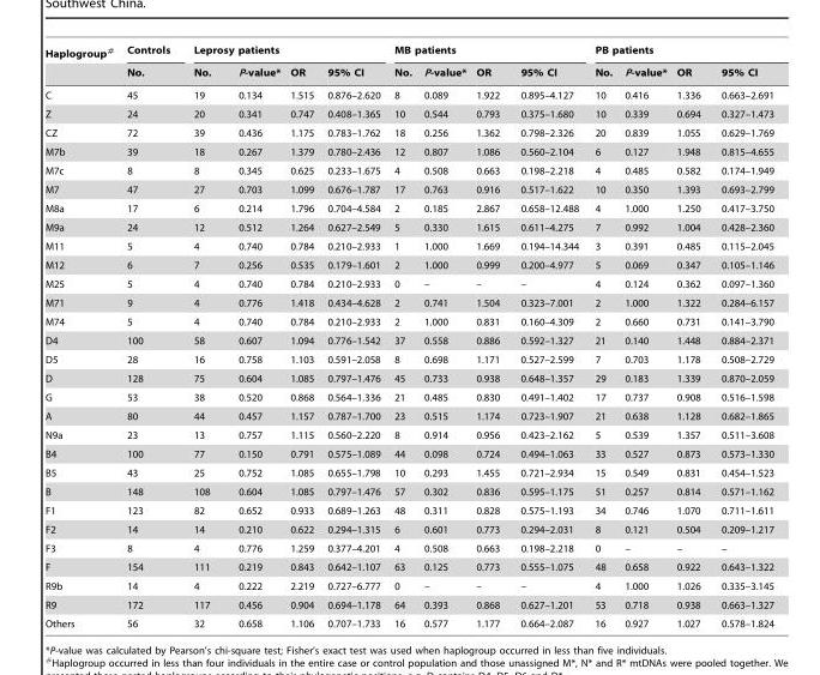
<table><thead><tr><td rowspan="2">Haplogroup#</td><td rowspan="2">Controls No.</td><td colspan="4">Leprosy patients</td><td colspan="4">MB patients</td><td colspan="4">PB patients</td></tr><tr><td>No.</td><td>P-value*</td><td>OR</td><td>95% CI</td><td>No.</td><td>P-value*</td><td>OR</td><td>95% CI</td><td>No.</td><td>P-value*</td><td>OR</td><td>95% CI</td></tr></thead><tbody><tr><td>C</td><td>45</td><td>19</td><td>0.134</td><td>1.515</td><td>0.876–2.620</td><td>8</td><td>0.089</td><td>1.922</td><td>0.895–4.127</td><td>10</td><td>0.416</td><td>1.336</td><td>0.663–2.691</td></tr><tr><td>Z</td><td>24</td><td>20</td><td>0.341</td><td>0.747</td><td>0.408–1.365</td><td>10</td><td>0.544</td><td>0.793</td><td>0.375–1.680</td><td>10</td><td>0.339</td><td>0.694</td><td>0.327–1.473</td></tr><tr><td>CZ</td><td>72</td><td>39</td><td>0.436</td><td>1.175</td><td>0.783–1.762</td><td>18</td><td>0.256</td><td>1.362</td><td>0.798–2.326</td><td>20</td><td>0.839</td><td>1.055</td><td>0.629–1.769</td></tr><tr><td>M7b</td><td>39</td><td>18</td><td>0.267</td><td>1.379</td><td>0.780–2.436</td><td>12</td><td>0.807</td><td>1.086</td><td>0.560–2.104</td><td>6</td><td>0.127</td><td>1.948</td><td>0.815–4.655</td></tr><tr><td>M7c</td><td>8</td><td>8</td><td>0.345</td><td>0.625</td><td>0.233–1.675</td><td>4</td><td>0.508</td><td>0.663</td><td>0.198–2.218</td><td>4</td><td>0.485</td><td>0.582</td><td>0.174–1.949</td></tr><tr><td>M7</td><td>47</td><td>27</td><td>0.703</td><td>1.099</td><td>0.676–1.787</td><td>17</td><td>0.763</td><td>0.916</td><td>0.517–1.622</td><td>10</td><td>0.350</td><td>1.393</td><td>0.693–2.799</td></tr><tr><td>M8a</td><td>17</td><td>6</td><td>0.214</td><td>1.796</td><td>0.704–4.584</td><td>2</td><td>0.185</td><td>2.867</td><td>0.658–12.488</td><td>4</td><td>1.000</td><td>1.250</td><td>0.417–3.750</td></tr><tr><td>M9a</td><td>24</td><td>12</td><td>0.512</td><td>1.264</td><td>0.627–2.549</td><td>5</td><td>0.330</td><td>1.615</td><td>0.611–4.275</td><td>7</td><td>0.992</td><td>1.004</td><td>0.428–2.360</td></tr><tr><td>M11</td><td>5</td><td>4</td><td>0.740</td><td>0.784</td><td>0.210–2.933</td><td>1</td><td>1.000</td><td>1.669</td><td>0.194–14.344</td><td>3</td><td>0.391</td><td>0.485</td><td>0.115–2.045</td></tr><tr><td>M12</td><td>6</td><td>7</td><td>0.256</td><td>0.535</td><td>0.179–1.601</td><td>2</td><td>1.000</td><td>0.999</td><td>0.200–4.977</td><td>5</td><td>0.069</td><td>0.347</td><td>0.105–1.146</td></tr><tr><td>M25</td><td>5</td><td>4</td><td>0.740</td><td>0.784</td><td>0.210–2.933</td><td>0</td><td>–</td><td>–</td><td>–</td><td>4</td><td>0.124</td><td>0.362</td><td>0.097–1.360</td></tr><tr><td>M71</td><td>9</td><td>4</td><td>0.776</td><td>1.418</td><td>0.434–4.628</td><td>2</td><td>0.741</td><td>1.504</td><td>0.323–7.001</td><td>2</td><td>1.000</td><td>1.322</td><td>0.284–6.157</td></tr><tr><td>M74</td><td>5</td><td>4</td><td>0.740</td><td>0.784</td><td>0.210–2.933</td><td>2</td><td>1.000</td><td>0.831</td><td>0.160–4.309</td><td>2</td><td>0.660</td><td>0.731</td><td>0.141–3.790</td></tr><tr><td>D4</td><td>100</td><td>58</td><td>0.607</td><td>1.094</td><td>0.776–1.542</td><td>37</td><td>0.558</td><td>0.886</td><td>0.592–1.327</td><td>21</td><td>0.140</td><td>1.448</td><td>0.884–2.371</td></tr><tr><td>D5</td><td>28</td><td>16</td><td>0.758</td><td>1.103</td><td>0.591–2.058</td><td>8</td><td>0.698</td><td>1.171</td><td>0.527–2.599</td><td>7</td><td>0.703</td><td>1.178</td><td>0.508–2.729</td></tr><tr><td>D</td><td>128</td><td>75</td><td>0.604</td><td>1.085</td><td>0.797–1.476</td><td>45</td><td>0.733</td><td>0.938</td><td>0.648–1.357</td><td>29</td><td>0.183</td><td>1.339</td><td>0.870–2.059</td></tr><tr><td>G</td><td>53</td><td>38</td><td>0.520</td><td>0.868</td><td>0.564–1.336</td><td>21</td><td>0.485</td><td>0.830</td><td>0.491–1.402</td><td>17</td><td>0.737</td><td>0.908</td><td>0.516–1.598</td></tr><tr><td>A</td><td>80</td><td>44</td><td>0.457</td><td>1.157</td><td>0.787–1.700</td><td>23</td><td>0.515</td><td>1.174</td><td>0.723–1.907</td><td>21</td><td>0.638</td><td>1.128</td><td>0.682–1.865</td></tr><tr><td>N9a</td><td>23</td><td>13</td><td>0.757</td><td>1.115</td><td>0.560–2.220</td><td>8</td><td>0.914</td><td>0.956</td><td>0.423–2.162</td><td>5</td><td>0.539</td><td>1.357</td><td>0.511–3.608</td></tr><tr><td>B4</td><td>100</td><td>77</td><td>0.150</td><td>0.791</td><td>0.575–1.089</td><td>44</td><td>0.098</td><td>0.724</td><td>0.494–1.063</td><td>33</td><td>0.527</td><td>0.873</td><td>0.573–1.330</td></tr><tr><td>B5</td><td>43</td><td>25</td><td>0.752</td><td>1.085</td><td>0.655–1.798</td><td>10</td><td>0.293</td><td>1.455</td><td>0.721–2.934</td><td>15</td><td>0.549</td><td>0.831</td><td>0.454–1.523</td></tr><tr><td>B</td><td>148</td><td>108</td><td>0.604</td><td>1.085</td><td>0.797–1.476</td><td>57</td><td>0.302</td><td>0.836</td><td>0.595–1.175</td><td>51</td><td>0.257</td><td>0.814</td><td>0.571–1.162</td></tr><tr><td>F1</td><td>123</td><td>82</td><td>0.652</td><td>0.933</td><td>0.689–1.263</td><td>48</td><td>0.311</td><td>0.828</td><td>0.575–1.193</td><td>34</td><td>0.746</td><td>1.070</td><td>0.711–1.611</td></tr><tr><td>F2</td><td>14</td><td>14</td><td>0.210</td><td>0.622</td><td>0.294–1.315</td><td>6</td><td>0.601</td><td>0.773</td><td>0.294–2.031</td><td>8</td><td>0.121</td><td>0.504</td><td>0.209–1.217</td></tr><tr><td>F3</td><td>8</td><td>4</td><td>0.776</td><td>1.259</td><td>0.377–4.201</td><td>4</td><td>0.508</td><td>0.663</td><td>0.198–2.218</td><td>0</td><td>–</td><td>–</td><td>–</td></tr><tr><td>F</td><td>154</td><td>111</td><td>0.219</td><td>0.843</td><td>0.642–1.107</td><td>63</td><td>0.125</td><td>0.773</td><td>0.555–1.075</td><td>48</td><td>0.658</td><td>0.922</td><td>0.643–1.322</td></tr><tr><td>R9b</td><td>14</td><td>4</td><td>0.222</td><td>2.219</td><td>0.727–6.777</td><td>0</td><td>–</td><td>–</td><td>–</td><td>4</td><td>1.000</td><td>1.026</td><td>0.335–3.145</td></tr><tr><td>R9</td><td>172</td><td>117</td><td>0.456</td><td>0.904</td><td>0.694–1.178</td><td>64</td><td>0.393</td><td>0.868</td><td>0.627–1.201</td><td>53</td><td>0.718</td><td>0.938</td><td>0.663–1.327</td></tr><tr><td>Others</td><td>56</td><td>32</td><td>0.658</td><td>1.106</td><td>0.707–1.733</td><td>16</td><td>0.577</td><td>1.177</td><td>0.664–2.087</td><td>16</td><td>0.927</td><td>1.027</td><td>0.578–1.824</td></tr></tbody></table>